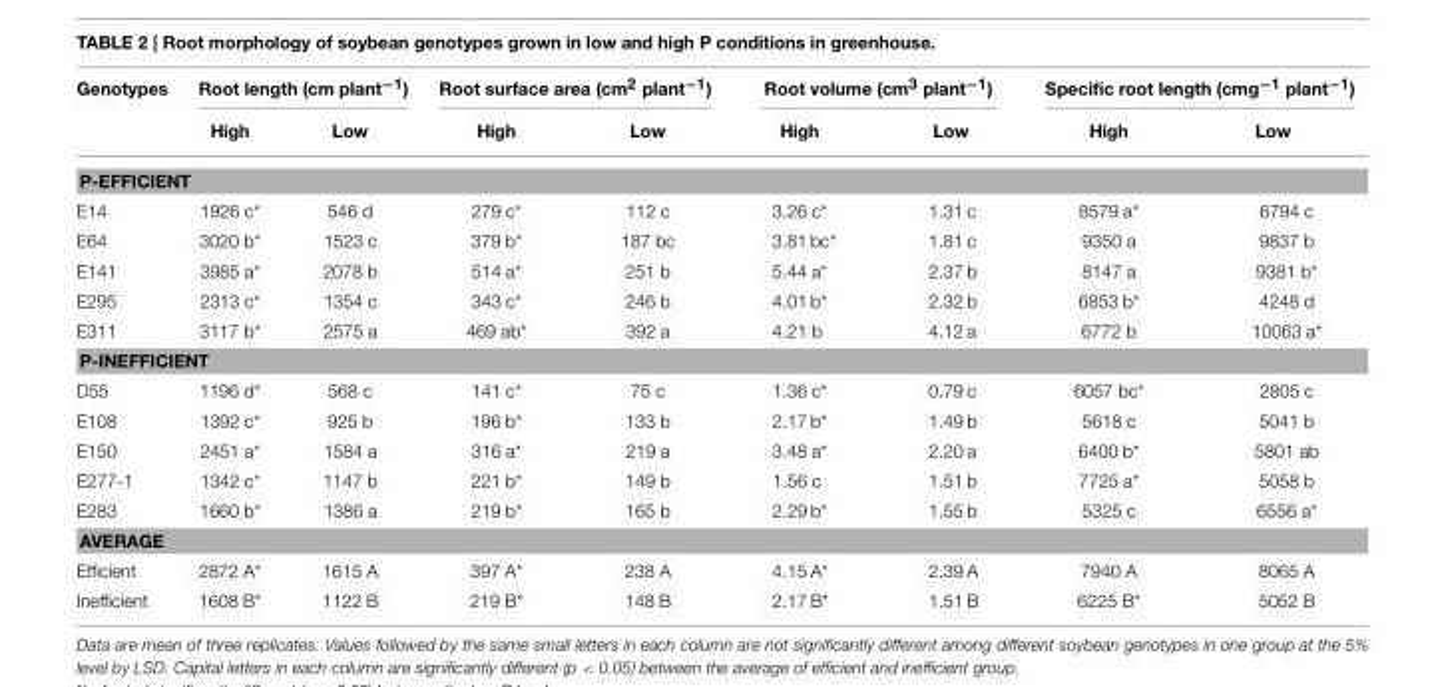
<table><thead><tr><td rowspan="2">Genotypes</td><td colspan="2">Root length (cm plant<sup>−1</sup>)</td><td colspan="2">Root surface area (cm<sup>2</sup> plant<sup>−1</sup>)</td><td colspan="2">Root volume (cm<sup>3</sup> plant<sup>−1</sup>)</td><td colspan="2">Specific root length (cmg<sup>−1</sup> plant<sup>−1</sup>)</td></tr><tr><td>High</td><td>Low</td><td>High</td><td>Low</td><td>High</td><td>Low</td><td>High</td><td>Low</td></tr></thead><tbody><tr><td colspan="9">P-EFFICIENT</td></tr><tr><td>E14</td><td>1926 c*</td><td>546 d</td><td>279 c*</td><td>112 c</td><td>3.26 c*</td><td>1.31 c</td><td>8579 a*</td><td>6794 c</td></tr><tr><td>E64</td><td>3020 b*</td><td>1523 c</td><td>379 b*</td><td>187 bc</td><td>3.81 bc*</td><td>1.81 c</td><td>9350 a</td><td>9837 b</td></tr><tr><td>E141</td><td>3985 a*</td><td>2078 b</td><td>514 a*</td><td>251 b</td><td>5.44 a*</td><td>2.37 b</td><td>8147 a</td><td>9381 b*</td></tr><tr><td>E295</td><td>2313 c*</td><td>1354 c</td><td>343 c*</td><td>246 b</td><td>4.01 b*</td><td>2.32 b</td><td>6853 b*</td><td>4248 d</td></tr><tr><td>E311</td><td>3117 b*</td><td>2575 a</td><td>469 ab*</td><td>392 a</td><td>4.21 b</td><td>4.12 a</td><td>6772 b</td><td>10063 a*</td></tr><tr><td colspan="9">P-INEFFICIENT</td></tr><tr><td>D55</td><td>1196 d*</td><td>568 c</td><td>141 c*</td><td>75 c</td><td>1.36 c*</td><td>0.79 c</td><td>6057 bc*</td><td>2805 c</td></tr><tr><td>E108</td><td>1392 c*</td><td>925 b</td><td>196 b*</td><td>133 b</td><td>2.17 b*</td><td>1.49 b</td><td>5618 c</td><td>5041 b</td></tr><tr><td>E150</td><td>2451 a*</td><td>1584 a</td><td>316 a*</td><td>219 a</td><td>3.48 a*</td><td>2.20 a</td><td>6400 b*</td><td>5801 ab</td></tr><tr><td>E277-1</td><td>1342 c*</td><td>1147 b</td><td>221 b*</td><td>149 b</td><td>1.56 c</td><td>1.51 b</td><td>7725 a*</td><td>5058 b</td></tr><tr><td>E283</td><td>1660 b*</td><td>1386 a</td><td>219 b*</td><td>165 b</td><td>2.29 b*</td><td>1.55 b</td><td>5325 c</td><td>6556 a*</td></tr><tr><td colspan="9">AVERAGE</td></tr><tr><td>Efficient</td><td>2872 A*</td><td>1615 A</td><td>397 A*</td><td>238 A</td><td>4.15 A*</td><td>2.39 A</td><td>7940 A</td><td>8065 A</td></tr><tr><td>Inefficient</td><td>1608 B*</td><td>1122 B</td><td>219 B*</td><td>148 B</td><td>2.17 B*</td><td>1.51 B</td><td>6225 B*</td><td>5052 B</td></tr></tbody></table>